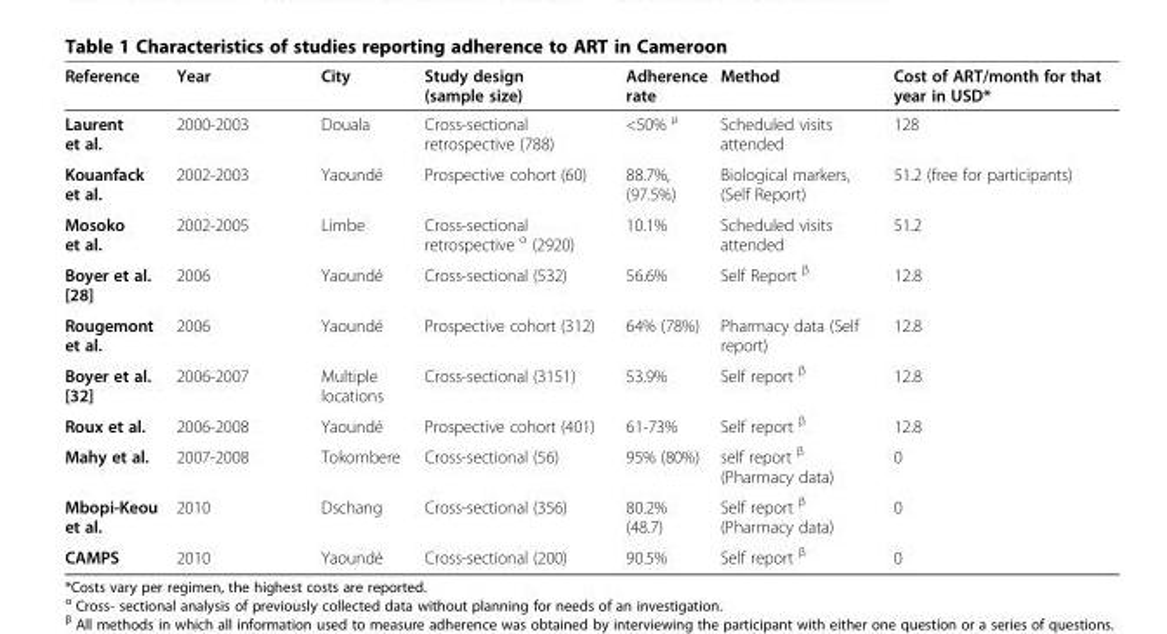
<table><thead><tr><td>Reference</td><td>Year</td><td>City</td><td>Study design (sample size)</td><td>Adherence rate</td><td>Method</td><td>Cost of ART/month for that year in USD*</td></tr></thead><tbody><tr><td>Laurent et al.</td><td>2000-2003</td><td>Douala</td><td>Cross-sectional retrospective (788)</td><td>&lt;50% <sup>μ</sup></td><td>Scheduled visits attended</td><td>128</td></tr><tr><td>Kouanfack et al.</td><td>2002-2003</td><td>Yaoundé</td><td>Prospective cohort (60)</td><td>88.7%, (97.5%)</td><td>Biological markers, (Self Report)</td><td>51.2 (free for participants)</td></tr><tr><td>Mosoko et al.</td><td>2002-2005</td><td>Limbe</td><td>Cross-sectional retrospective <sup>α</sup> (2920)</td><td>10.1%</td><td>Scheduled visits attended</td><td>51.2</td></tr><tr><td>Boyer et al. [28]</td><td>2006</td><td>Yaoundé</td><td>Cross-sectional (532)</td><td>56.6%</td><td>Self Report <sup>β</sup></td><td>12.8</td></tr><tr><td>Rougemont et al.</td><td>2006</td><td>Yaoundé</td><td>Prospective cohort (312)</td><td>64% (78%)</td><td>Pharmacy data (Self report)</td><td>12.8</td></tr><tr><td>Boyer et al. [32]</td><td>2006-2007</td><td>Multiple locations</td><td>Cross-sectional (3151)</td><td>53.9%</td><td>Self report <sup>β</sup></td><td>12.8</td></tr><tr><td>Roux et al.</td><td>2006-2008</td><td>Yaoundé</td><td>Prospective cohort (401)</td><td>61-73%</td><td>Self report <sup>β</sup></td><td>12.8</td></tr><tr><td>Mahy et al.</td><td>2007-2008</td><td>Tokombere</td><td>Cross-sectional (56)</td><td>95% (80%)</td><td>self report <sup>β</sup> (Pharmacy data)</td><td>0</td></tr><tr><td>Mbopi-Keou et al.</td><td>2010</td><td>Dschang</td><td>Cross-sectional (356)</td><td>80.2% (48.7)</td><td>Self report <sup>β</sup> (Pharmacy data)</td><td>0</td></tr><tr><td>CAMPS</td><td>2010</td><td>Yaoundé</td><td>Cross-sectional (200)</td><td>90.5%</td><td>Self report <sup>β</sup></td><td>0</td></tr></tbody></table>